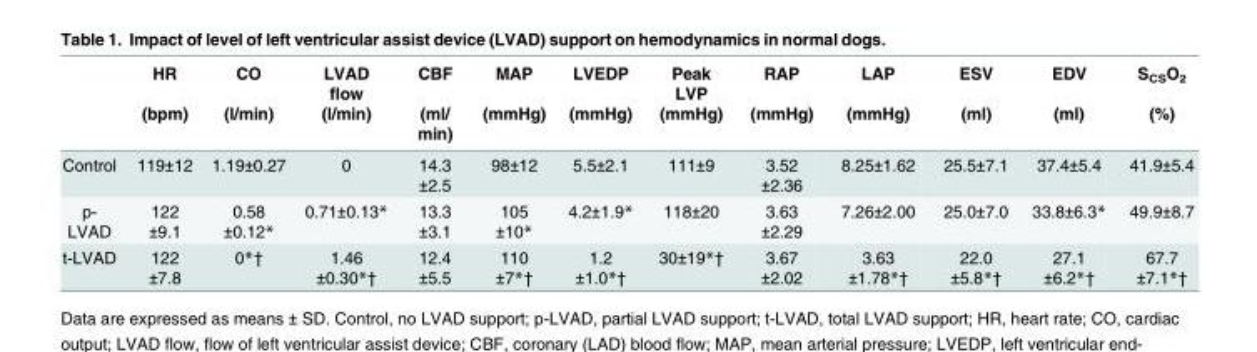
<table><thead><tr><td rowspan="2"></td><td rowspan="2">HR (bpm)</td><td rowspan="2">CO (l/min)</td><td rowspan="2">LVAD flow (l/min)</td><td rowspan="2">CBF (ml/ min)</td><td rowspan="2">MAP (mmHg)</td><td rowspan="2">LVEDP (mmHg)</td><td rowspan="2">Peak LVP (mmHg)</td><td rowspan="2">RAP (mmHg)</td><td rowspan="2">LAP (mmHg)</td><td rowspan="2">ESV (ml)</td><td rowspan="2">EDV (ml)</td><td rowspan="2">S<sub>CS</sub>O<sub>2</sub> (%)</td></tr><tr></tr></thead><tbody><tr><td>Control</td><td>119±12</td><td>1.19±0.27</td><td>0</td><td>14.3 ±2.5</td><td>98±12</td><td>5.5±2.1</td><td>111±9</td><td>3.52 ±2.36</td><td>8.25±1.62</td><td>25.5±7.1</td><td>37.4±5.4</td><td>41.9±5.4</td></tr><tr><td>p- LVAD</td><td>122 ±9.1</td><td>0.58 ±0.12*</td><td>0.71±0.13*</td><td>13.3 ±3.1</td><td>105 ±10*</td><td>4.2±1.9*</td><td>118±20</td><td>3.63 ±2.29</td><td>7.26±2.00</td><td>25.0±7.0</td><td>33.8±6.3*</td><td>49.9±8.7</td></tr><tr><td>t-LVAD</td><td>122 ±7.8</td><td>0*†</td><td>1.46 ±0.30*†</td><td>12.4 ±5.5</td><td>110 ±7*†</td><td>1.2 ±1.0*†</td><td>30±19*†</td><td>3.67 ±2.02</td><td>3.63 ±1.78*†</td><td>22.0 ±5.8*†</td><td>27.1 ±6.2*†</td><td>67.7 ±7.1*†</td></tr></tbody></table>